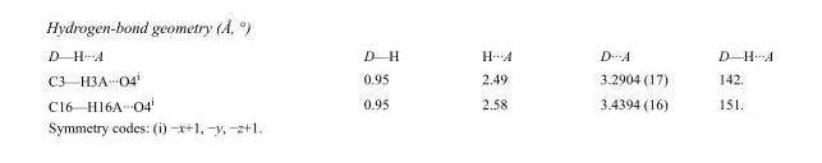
<table><tbody><tr><td>D—H···A</td><td>D—H</td><td>H···A</td><td>D···A</td><td>D—H···A</td></tr><tr><td>C3—H3A···O4<sup>i</sup></td><td>0.95</td><td>2.49</td><td>3.2904 (17)</td><td>142.</td></tr><tr><td>C16—H16A···O4<sup>i</sup></td><td>0.95</td><td>2.58</td><td>3.4394 (16)</td><td>151.</td></tr></tbody></table>